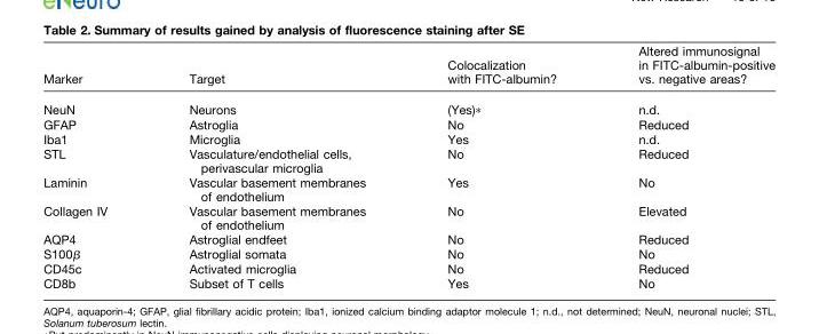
<table><thead><tr><td>Marker</td><td>Target</td><td>Colocalization with FITC-albumin?</td><td>Altered immunosignal in FITC-albumin-positive vs. negative areas?</td></tr></thead><tbody><tr><td>NeuN</td><td>Neurons</td><td>(Yes)*</td><td>n.d.</td></tr><tr><td>GFAP</td><td>Astroglia</td><td>No</td><td>Reduced</td></tr><tr><td>Iba1</td><td>Microglia</td><td>Yes</td><td>n.d.</td></tr><tr><td>STL</td><td>Vasculature/endothelial cells, perivascular microglia</td><td>No</td><td>Reduced</td></tr><tr><td>Laminin</td><td>Vascular basement membranes of endothelium</td><td>Yes</td><td>No</td></tr><tr><td>Collagen IV</td><td>Vascular basement membranes of endothelium</td><td>No</td><td>Elevated</td></tr><tr><td>AQP4</td><td>Astroglial endfeet</td><td>No</td><td>Reduced</td></tr><tr><td>S100β</td><td>Astroglial somata</td><td>No</td><td>No</td></tr><tr><td>CD45c</td><td>Activated microglia</td><td>No</td><td>Reduced</td></tr><tr><td>CD8b</td><td>Subset of T cells</td><td>Yes</td><td>No</td></tr></tbody></table>